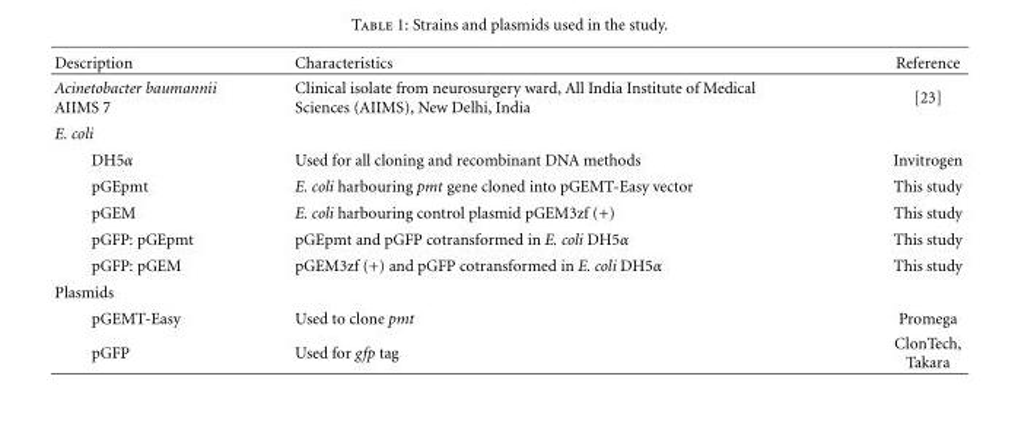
<table><thead><tr><td>Description</td><td>Characteristics</td><td>Reference</td></tr></thead><tbody><tr><td>Acinetobacter baumannii AIIMS 7</td><td>Clinical isolate from neurosurgery ward, All India Institute of Medical Sciences (AIIMS), New Delhi, India</td><td>[23]</td></tr><tr><td colspan="3">E. coli</td></tr><tr><td>DH5α</td><td>Used for all cloning and recombinant DNA methods</td><td>Invitrogen</td></tr><tr><td>pGEpmt</td><td>E. coli harbouring pmt gene cloned into pGEMT-Easy vector</td><td>This study</td></tr><tr><td>pGEM</td><td>E. coli harbouring control plasmid pGEM3zf (+)</td><td>This study</td></tr><tr><td>pGFP: pGEpmt</td><td>pGEpmt and pGFP cotransformed in E. coli DH5α</td><td>This study</td></tr><tr><td>pGFP: pGEM</td><td>pGEM3zf (+) and pGFP cotransformed in E. coli DH5α</td><td>This study</td></tr><tr><td colspan="3">Plasmids</td></tr><tr><td>pGEMT-Easy</td><td>Used to clone pmt</td><td>Promega</td></tr><tr><td>pGFP</td><td>Used for gfp tag</td><td>ClonTech, Takara</td></tr></tbody></table>